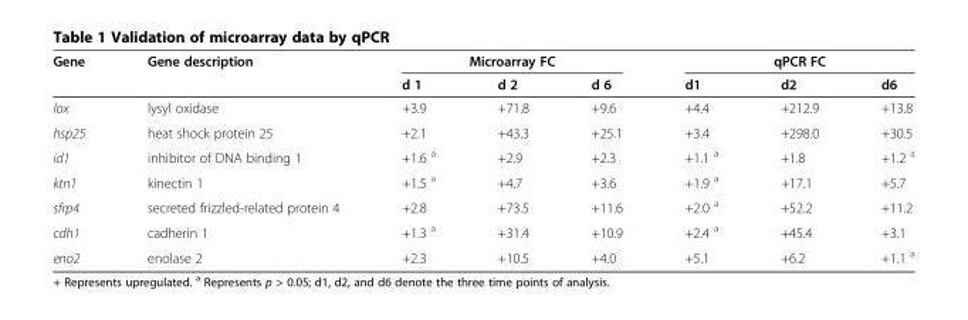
<table><thead><tr><td rowspan="2">Gene</td><td rowspan="2">Gene description</td><td colspan="3">Microarray FC</td><td colspan="3">qPCR FC</td></tr><tr><td>d 1</td><td>d 2</td><td>d 6</td><td>d1</td><td>d2</td><td>d6</td></tr></thead><tbody><tr><td>lox</td><td>lysyl oxidase</td><td>+3.9</td><td>+71.8</td><td>+9.6</td><td>+4.4</td><td>+212.9</td><td>+13.8</td></tr><tr><td>hsp25</td><td>heat shock protein 25</td><td>+2.1</td><td>+43.3</td><td>+25.1</td><td>+3.4</td><td>+298.0</td><td>+30.5</td></tr><tr><td>id1</td><td>inhibitor of DNA binding 1</td><td>+1.6 <sup>a</sup></td><td>+2.9</td><td>+2.3</td><td>+1.1 <sup>a</sup></td><td>+1.8</td><td>+1.2 <sup>a</sup></td></tr><tr><td>ktn1</td><td>kinectin 1</td><td>+1.5 <sup>a</sup></td><td>+4.7</td><td>+3.6</td><td>+1.9 <sup>a</sup></td><td>+17.1</td><td>+5.7</td></tr><tr><td>sfrp4</td><td>secreted frizzled-related protein 4</td><td>+2.8</td><td>+73.5</td><td>+11.6</td><td>+2.0 <sup>a</sup></td><td>+52.2</td><td>+11.2</td></tr><tr><td>cdh1</td><td>cadherin 1</td><td>+1.3 <sup>a</sup></td><td>+31.4</td><td>+10.9</td><td>+2.4 <sup>a</sup></td><td>+45.4</td><td>+3.1</td></tr><tr><td>eno2</td><td>enolase 2</td><td>+2.3</td><td>+10.5</td><td>+4.0</td><td>+5.1</td><td>+6.2</td><td>+1.1 <sup>a</sup></td></tr></tbody></table>